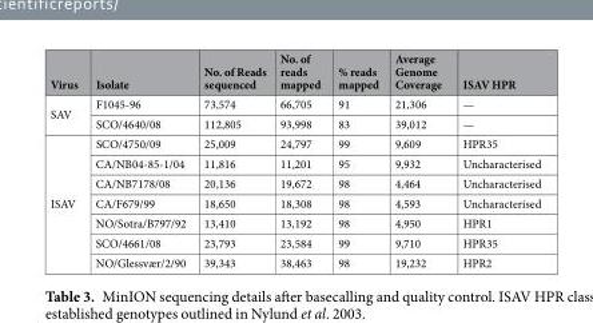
<table><thead><tr><td>Virus</td><td>Isolate</td><td>No. of Reads sequenced</td><td>No. of reads mapped</td><td>% reads mapped</td><td>Average Genome Coverage</td><td>ISAV HPR</td></tr></thead><tbody><tr><td rowspan="2">SAV</td><td>F1045-96</td><td>73,574</td><td>66,705</td><td>91</td><td>21,306</td><td>—</td></tr><tr><td>SCO/4640/08</td><td>112,805</td><td>93,998</td><td>83</td><td>39,012</td><td>—</td></tr><tr><td rowspan="7">ISAV</td><td>SCO/4750/09</td><td>25,009</td><td>24,797</td><td>99</td><td>9,609</td><td>HPR35</td></tr><tr><td>CA/NB04-85-1/04</td><td>11,816</td><td>11,201</td><td>95</td><td>9,932</td><td>Uncharacterised</td></tr><tr><td>CA/NB7178/08</td><td>20,136</td><td>19,672</td><td>98</td><td>4,464</td><td>Uncharacterised</td></tr><tr><td>CA/F679/99</td><td>18,650</td><td>18,308</td><td>98</td><td>4,593</td><td>Uncharacterised</td></tr><tr><td>NO/Sotra/B797/92</td><td>13,410</td><td>13,192</td><td>98</td><td>4,950</td><td>HPR1</td></tr><tr><td>SCO/4661/08</td><td>23,793</td><td>23,584</td><td>99</td><td>9,710</td><td>HPR35</td></tr><tr><td>NO/Glessvær/2/90</td><td>39,343</td><td>38,463</td><td>98</td><td>19,232</td><td>HPR2</td></tr></tbody></table>